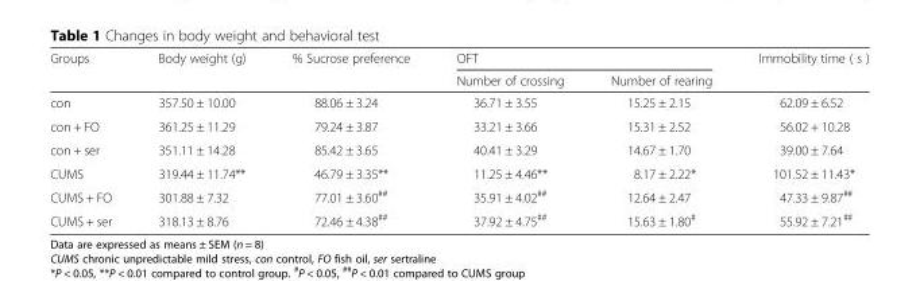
<table><thead><tr><td rowspan="2">Groups</td><td rowspan="2">Body weight (g)</td><td rowspan="2">% Sucrose preference</td><td colspan="2">OFT</td><td rowspan="2">Immobility time ( s )</td></tr><tr><td>Number of crossing</td><td>Number of rearing</td></tr></thead><tbody><tr><td>con</td><td>357.50 ± 10.00</td><td>88.06 ± 3.24</td><td>36.71 ± 3.55</td><td>15.25 ± 2.15</td><td>62.09 ± 6.52</td></tr><tr><td>con + FO</td><td>361.25 ± 11.29</td><td>79.24 ± 3.87</td><td>33.21 ± 3.66</td><td>15.31 ± 2.52</td><td>56.02 + 10.28</td></tr><tr><td>con + ser</td><td>351.11 ± 14.28</td><td>85.42 ± 3.65</td><td>40.41 ± 3.29</td><td>14.67 ± 1.70</td><td>39.00 ± 7.64</td></tr><tr><td>CUMS</td><td>319.44 ± 11.74**</td><td>46.79 ± 3.35**</td><td>11.25 ± 4.46**</td><td>8.17 ± 2.22*</td><td>101.52 ± 11.43*</td></tr><tr><td>CUMS + FO</td><td>301.88 ± 7.32</td><td>77.01 ± 3.60<sup>##</sup></td><td>35.91 ± 4.02<sup>##</sup></td><td>12.64 ± 2.47</td><td>47.33 ± 9.87<sup>##</sup></td></tr><tr><td>CUMS + ser</td><td>318.13 ± 8.76</td><td>72.46 ± 4.38<sup>##</sup></td><td>37.92 ± 4.75<sup>##</sup></td><td>15.63 ± 1.80<sup>#</sup></td><td>55.92 ± 7.21<sup>##</sup></td></tr></tbody></table>